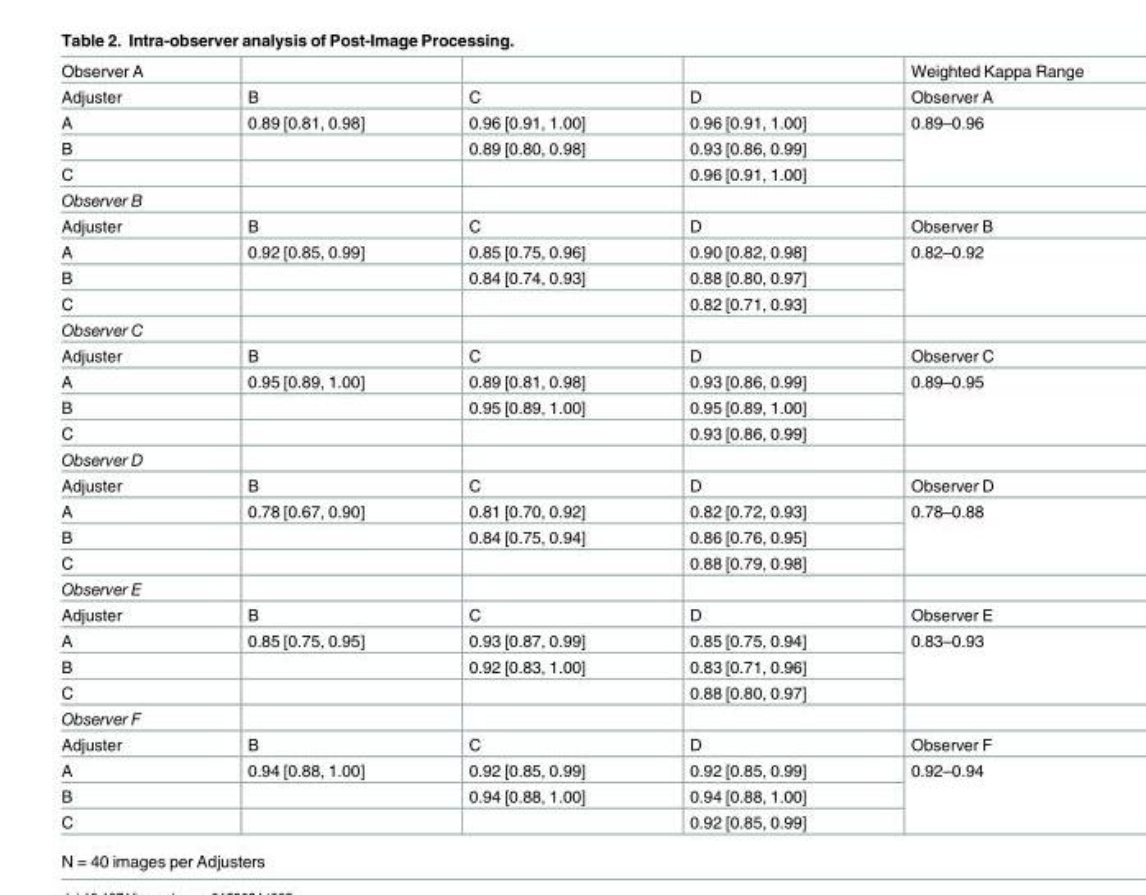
<table><tbody><tr><td>Observer A</td><td></td><td></td><td></td><td>Weighted Kappa Range</td></tr><tr><td>Adjuster</td><td>B</td><td>C</td><td>D</td><td>Observer A</td></tr><tr><td>A</td><td>0.89 [0.81, 0.98]</td><td>0.96 [0.91, 1.00]</td><td>0.96 [0.91, 1.00]</td><td rowspan="3">0.89–0.96</td></tr><tr><td>B</td><td></td><td>0.89 [0.80, 0.98]</td><td>0.93 [0.86, 0.99]</td></tr><tr><td>C</td><td></td><td></td><td>0.96 [0.91, 1.00]</td></tr><tr><td colspan="5">Observer B</td></tr><tr><td>Adjuster</td><td>B</td><td>C</td><td>D</td><td>Observer B</td></tr><tr><td>A</td><td>0.92 [0.85, 0.99]</td><td>0.85 [0.75, 0.96]</td><td>0.90 [0.82, 0.98]</td><td rowspan="3">0.82–0.92</td></tr><tr><td>B</td><td></td><td>0.84 [0.74, 0.93]</td><td>0.88 [0.80, 0.97]</td></tr><tr><td>C</td><td></td><td></td><td>0.82 [0.71, 0.93]</td></tr><tr><td colspan="5">Observer C</td></tr><tr><td>Adjuster</td><td>B</td><td>C</td><td>D</td><td>Observer C</td></tr><tr><td>A</td><td>0.95 [0.89, 1.00]</td><td>0.89 [0.81, 0.98]</td><td>0.93 [0.86, 0.99]</td><td rowspan="3">0.89–0.95</td></tr><tr><td>B</td><td></td><td>0.95 [0.89, 1.00]</td><td>0.95 [0.89, 1.00]</td></tr><tr><td>C</td><td></td><td></td><td>0.93 [0.86, 0.99]</td></tr><tr><td colspan="5">Observer D</td></tr><tr><td>Adjuster</td><td>B</td><td>C</td><td>D</td><td>Observer D</td></tr><tr><td>A</td><td>0.78 [0.67, 0.90]</td><td>0.81 [0.70, 0.92]</td><td>0.82 [0.72, 0.93]</td><td rowspan="3">0.78–0.88</td></tr><tr><td>B</td><td></td><td>0.84 [0.75, 0.94]</td><td>0.86 [0.76, 0.95]</td></tr><tr><td>C</td><td></td><td></td><td>0.88 [0.79, 0.98]</td></tr><tr><td colspan="5">Observer E</td></tr><tr><td>Adjuster</td><td>B</td><td>C</td><td>D</td><td>Observer E</td></tr><tr><td>A</td><td>0.85 [0.75, 0.95]</td><td>0.93 [0.87, 0.99]</td><td>0.85 [0.75, 0.94]</td><td rowspan="3">0.83–0.93</td></tr><tr><td>B</td><td></td><td>0.92 [0.83, 1.00]</td><td>0.83 [0.71, 0.96]</td></tr><tr><td>C</td><td></td><td></td><td>0.88 [0.80, 0.97]</td></tr><tr><td colspan="5">Observer F</td></tr><tr><td>Adjuster</td><td>B</td><td>C</td><td>D</td><td>Observer F</td></tr><tr><td>A</td><td>0.94 [0.88, 1.00]</td><td>0.92 [0.85, 0.99]</td><td>0.92 [0.85, 0.99]</td><td rowspan="3">0.92–0.94</td></tr><tr><td>B</td><td></td><td>0.94 [0.88, 1.00]</td><td>0.94 [0.88, 1.00]</td></tr><tr><td>C</td><td></td><td></td><td>0.92 [0.85, 0.99]</td></tr></tbody></table>